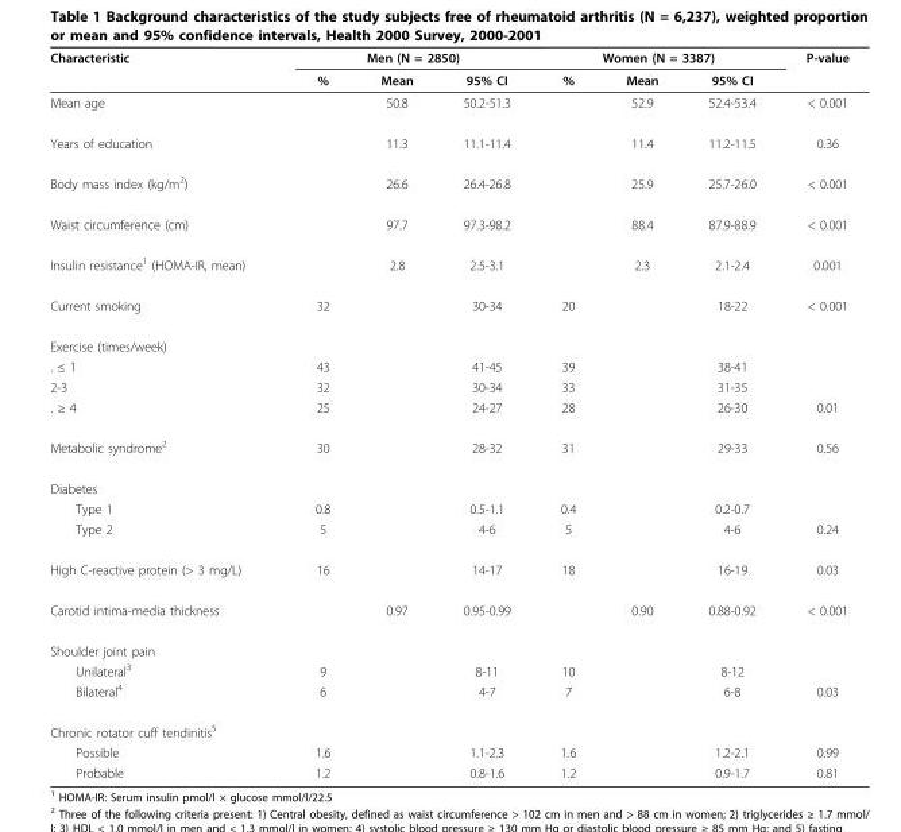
<table><thead><tr><td rowspan="2">Characteristic</td><td colspan="3">Men (N = 2850)</td><td colspan="3">Women (N = 3387)</td><td rowspan="2">P-value</td></tr><tr><td>%</td><td>Mean</td><td>95% CI</td><td>%</td><td>Mean</td><td>95% CI</td></tr></thead><tbody><tr><td>Mean age</td><td></td><td>50.8</td><td>50.2-51.3</td><td></td><td>52.9</td><td>52.4-53.4</td><td>&lt; 0.001</td></tr><tr><td>Years of education</td><td></td><td>11.3</td><td>11.1-11.4</td><td></td><td>11.4</td><td>11.2-11.5</td><td>0.36</td></tr><tr><td>Body mass index (kg/m<sup>2</sup>)</td><td></td><td>26.6</td><td>26.4-26.8</td><td></td><td>25.9</td><td>25.7-26.0</td><td>&lt; 0.001</td></tr><tr><td>Waist circumference (cm)</td><td></td><td>97.7</td><td>97.3-98.2</td><td></td><td>88.4</td><td>87.9-88.9</td><td>&lt; 0.001</td></tr><tr><td>Insulin resistance<sup>1</sup> (HOMA-IR, mean)</td><td></td><td>2.8</td><td>2.5-3.1</td><td></td><td>2.3</td><td>2.1-2.4</td><td>0.001</td></tr><tr><td>Current smoking</td><td>32</td><td></td><td>30-34</td><td>20</td><td></td><td>18-22</td><td>&lt; 0.001</td></tr><tr><td colspan="8">Exercise (times/week)</td></tr><tr><td>. ≤ 1</td><td>43</td><td></td><td>41-45</td><td>39</td><td></td><td>38-41</td><td></td></tr><tr><td>2-3</td><td>32</td><td></td><td>30-34</td><td>33</td><td></td><td>31-35</td><td></td></tr><tr><td>. ≥ 4</td><td>25</td><td></td><td>24-27</td><td>28</td><td></td><td>26-30</td><td>0.01</td></tr><tr><td>Metabolic syndrome<sup>2</sup></td><td>30</td><td></td><td>28-32</td><td>31</td><td></td><td>29-33</td><td>0.56</td></tr><tr><td colspan="8">Diabetes</td></tr><tr><td>Type 1</td><td>0.8</td><td></td><td>0.5-1.1</td><td>0.4</td><td></td><td>0.2-0.7</td><td></td></tr><tr><td>Type 2</td><td>5</td><td></td><td>4-6</td><td>5</td><td></td><td>4-6</td><td>0.24</td></tr><tr><td>High C-reactive protein (&gt; 3 mg/L)</td><td>16</td><td></td><td>14-17</td><td>18</td><td></td><td>16-19</td><td>0.03</td></tr><tr><td>Carotid intima-media thickness</td><td></td><td>0.97</td><td>0.95-0.99</td><td></td><td>0.90</td><td>0.88-0.92</td><td>&lt; 0.001</td></tr><tr><td colspan="8">Shoulder joint pain</td></tr><tr><td>Unilateral<sup>3</sup></td><td>9</td><td></td><td>8-11</td><td>10</td><td></td><td>8-12</td><td></td></tr><tr><td>Bilateral<sup>4</sup></td><td>6</td><td></td><td>4-7</td><td>7</td><td></td><td>6-8</td><td>0.03</td></tr><tr><td colspan="8">Chronic rotator cuff tendinitis<sup>5</sup></td></tr><tr><td>Possible</td><td>1.6</td><td></td><td>1.1-2.3</td><td>1.6</td><td></td><td>1.2-2.1</td><td>0.99</td></tr><tr><td>Probable</td><td>1.2</td><td></td><td>0.8-1.6</td><td>1.2</td><td></td><td>0.9-1.7</td><td>0.81</td></tr></tbody></table>